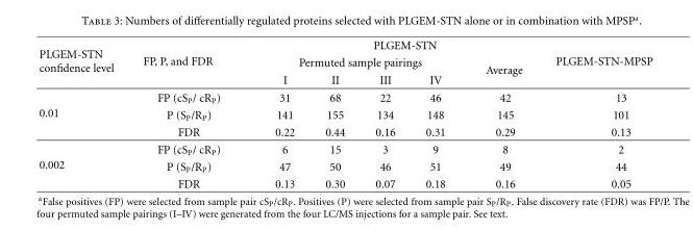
<table><thead><tr><td rowspan="3">PLGEM-STN confidence level</td><td rowspan="3">FP, P, and FDR</td><td colspan="5">PLGEM-STN</td><td rowspan="3">PLGEM-STN-MPSP</td></tr><tr><td colspan="4">Permuted sample pairings</td><td rowspan="2">Average</td></tr><tr><td>I</td><td>II</td><td>III</td><td>IV</td></tr></thead><tbody><tr><td rowspan="3">0.01</td><td>FP (cS<sub>P</sub>/ cR<sub>P</sub>)</td><td>31</td><td>68</td><td>22</td><td>46</td><td>42</td><td>13</td></tr><tr><td>P (S<sub>P</sub>/R<sub>P</sub>)</td><td>141</td><td>155</td><td>134</td><td>148</td><td>145</td><td>101</td></tr><tr><td>FDR</td><td>0.22</td><td>0.44</td><td>0.16</td><td>0.31</td><td>0.29</td><td>0.13</td></tr><tr><td rowspan="3">0.002</td><td>FP (cS<sub>P</sub>/ cR<sub>P</sub>)</td><td>6</td><td>15</td><td>3</td><td>9</td><td>8</td><td>2</td></tr><tr><td>P (S<sub>P</sub>/R<sub>P</sub>)</td><td>47</td><td>50</td><td>46</td><td>51</td><td>49</td><td>44</td></tr><tr><td>FDR</td><td>0.13</td><td>0.30</td><td>0.07</td><td>0.18</td><td>0.16</td><td>0.05</td></tr></tbody></table>